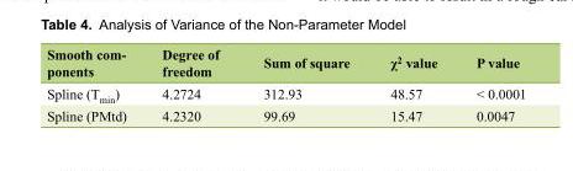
<table><thead><tr><td>Smooth com- ponents</td><td>Degree of freedom</td><td>Sum of square</td><td>χ<sup>2</sup> value</td><td>P value</td></tr></thead><tbody><tr><td>Spline (T<sub>min</sub>)</td><td>4.2724</td><td>312.93</td><td>48.57</td><td>&lt; 0.0001</td></tr><tr><td>Spline (PMtd)</td><td>4.2320</td><td>99.69</td><td>15.47</td><td>0.0047</td></tr></tbody></table>